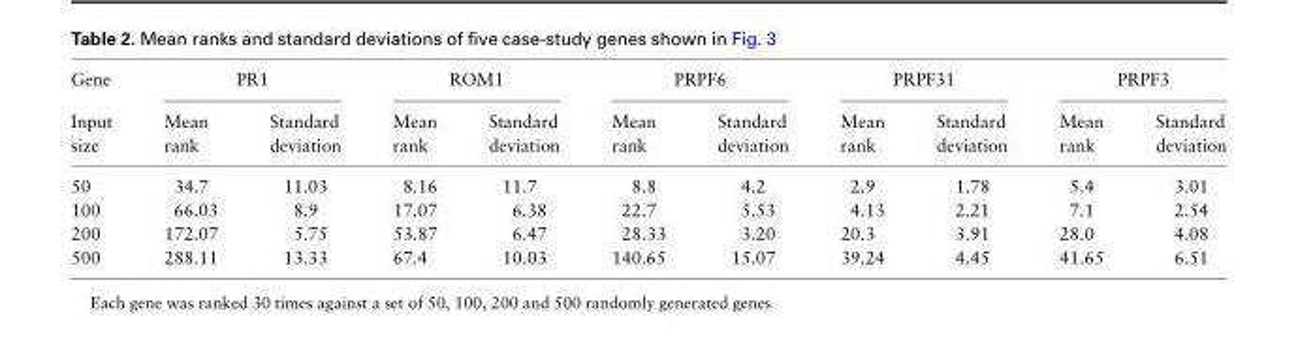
<table><thead><tr><td rowspan="2">Gene Input size</td><td colspan="2">PR1</td><td colspan="2">ROM1</td><td colspan="2">PRPF6</td><td colspan="2">PRPF31</td><td colspan="2">PRPF3</td></tr><tr><td>Mean rank</td><td>Standard deviation</td><td>Mean rank</td><td>Standard deviation</td><td>Mean rank</td><td>Standard deviation</td><td>Mean rank</td><td>Standard deviation</td><td>Mean rank</td><td>Standard deviation</td></tr></thead><tbody><tr><td>50</td><td>34.7</td><td>11.03</td><td>8.16</td><td>11.7</td><td>8.8</td><td>4.2</td><td>2.9</td><td>1.78</td><td>5.4</td><td>3.01</td></tr><tr><td>100</td><td>66.03</td><td>8.9</td><td>17.07</td><td>6.38</td><td>22.7</td><td>5.53</td><td>4.13</td><td>2.21</td><td>7.1</td><td>2.54</td></tr><tr><td>200</td><td>172.07</td><td>5.75</td><td>53.87</td><td>6.47</td><td>28.33</td><td>3.20</td><td>20.3</td><td>3.91</td><td>28.0</td><td>4.08</td></tr><tr><td>500</td><td>288.11</td><td>13.33</td><td>67.4</td><td>10.03</td><td>140.65</td><td>15.07</td><td>39.24</td><td>4.45</td><td>41.65</td><td>6.51</td></tr></tbody></table>